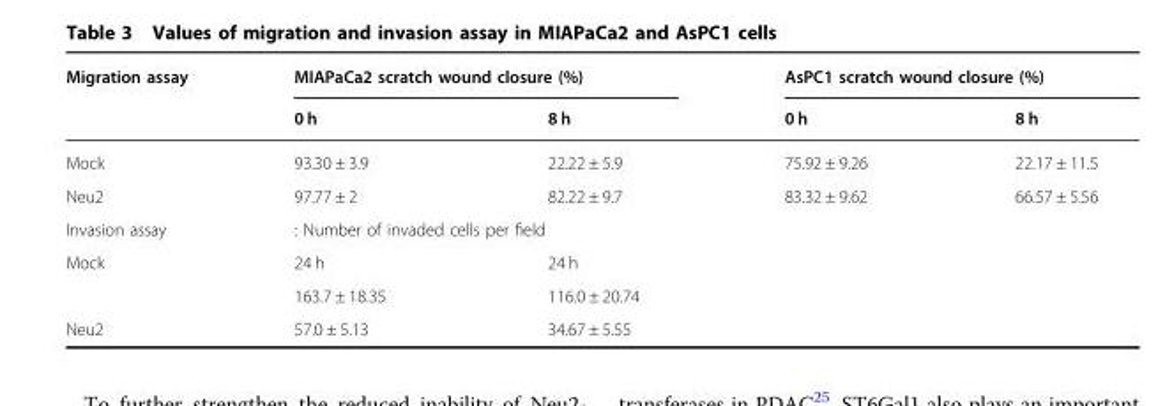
<table><thead><tr><td rowspan="2">Migration assay</td><td colspan="2">MIAPaCa2 scratch wound closure (%)</td><td colspan="2">AsPC1 scratch wound closure (%)</td></tr><tr><td>0 h</td><td>8 h</td><td>0 h</td><td>8 h</td></tr></thead><tbody><tr><td>Mock</td><td>93.30 ± 3.9</td><td>22.22 ± 5.9</td><td>75.92 ± 9.26</td><td>22.17 ± 11.5</td></tr><tr><td>Neu2</td><td>97.77 ± 2</td><td>82.22 ± 9.7</td><td>83.32 ± 9.62</td><td>66.57 ± 5.56</td></tr><tr><td>Invasion assay</td><td colspan="4">: Number of invaded cells per field</td></tr><tr><td rowspan="2">Mock</td><td>24 h</td><td colspan="3">24 h</td></tr><tr><td>163.7 ± 18.35</td><td colspan="3">116.0 ± 20.74</td></tr><tr><td>Neu2</td><td>57.0 ± 5.13</td><td colspan="3">34.67 ± 5.55</td></tr></tbody></table>